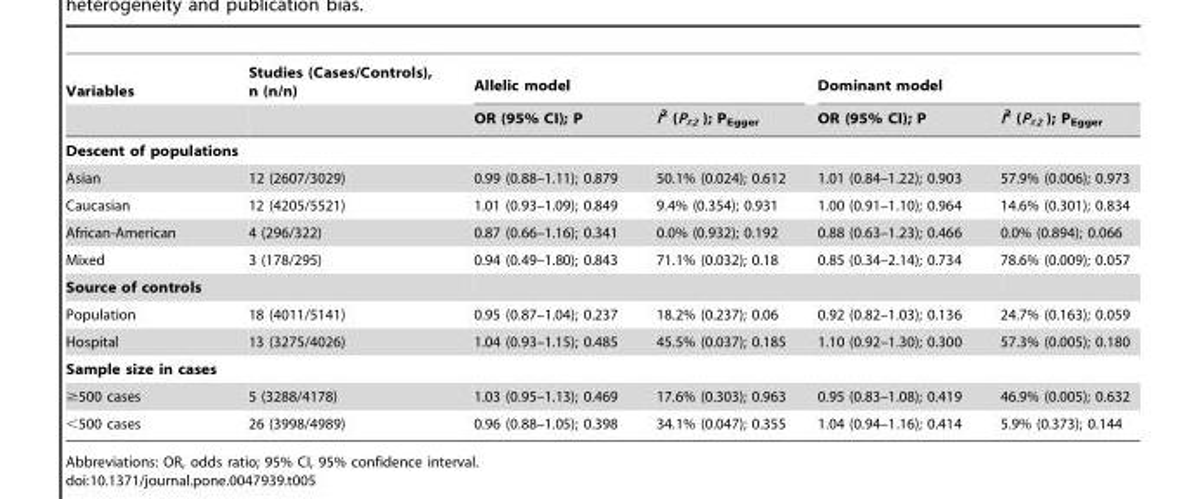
<table><thead><tr><td rowspan="2">Variables</td><td rowspan="2">Studies (Cases/Controls), n (n/n)</td><td colspan="2">Allelic model</td><td colspan="2">Dominant model</td></tr><tr><td>OR (95% CI); P</td><td>I<sup>2</sup> (P<sub>ϰ2</sub> ); P<sub>Egger</sub></td><td>OR (95% CI); P</td><td>I<sup>2</sup> (P<sub>ϰ2</sub> ); P<sub>Egger</sub></td></tr></thead><tbody><tr><td colspan="6">Descent of populations</td></tr><tr><td>Asian</td><td>12 (2607/3029)</td><td>0.99 (0.88–1.11); 0.879</td><td>50.1% (0.024); 0.612</td><td>1.01 (0.84–1.22); 0.903</td><td>57.9% (0.006); 0.973</td></tr><tr><td>Caucasian</td><td>12 (4205/5521)</td><td>1.01 (0.93–1.09); 0.849</td><td>9.4% (0.354); 0.931</td><td>1.00 (0.91–1.10); 0.964</td><td>14.6% (0.301); 0.834</td></tr><tr><td>African-American</td><td>4 (296/322)</td><td>0.87 (0.66–1.16); 0.341</td><td>0.0% (0.932); 0.192</td><td>0.88 (0.63–1.23); 0.466</td><td>0.0% (0.894); 0.066</td></tr><tr><td>Mixed</td><td>3 (178/295)</td><td>0.94 (0.49–1.80); 0.843</td><td>71.1% (0.032); 0.18</td><td>0.85 (0.34–2.14); 0.734</td><td>78.6% (0.009); 0.057</td></tr><tr><td colspan="6">Source of controls</td></tr><tr><td>Population</td><td>18 (4011/5141)</td><td>0.95 (0.87–1.04); 0.237</td><td>18.2% (0.237); 0.06</td><td>0.92 (0.82–1.03); 0.136</td><td>24.7% (0.163); 0.059</td></tr><tr><td>Hospital</td><td>13 (3275/4026)</td><td>1.04 (0.93–1.15); 0.485</td><td>45.5% (0.037); 0.185</td><td>1.10 (0.92–1.30); 0.300</td><td>57.3% (0.005); 0.180</td></tr><tr><td colspan="6">Sample size in cases</td></tr><tr><td>≥500 cases</td><td>5 (3288/4178)</td><td>1.03 (0.95–1.13); 0.469</td><td>17.6% (0.303); 0.963</td><td>0.95 (0.83–1.08); 0.419</td><td>46.9% (0.005); 0.632</td></tr><tr><td>&lt;500 cases</td><td>26 (3998/4989)</td><td>0.96 (0.88–1.05); 0.398</td><td>34.1% (0.047); 0.355</td><td>1.04 (0.94–1.16); 0.414</td><td>5.9% (0.373); 0.144</td></tr></tbody></table>